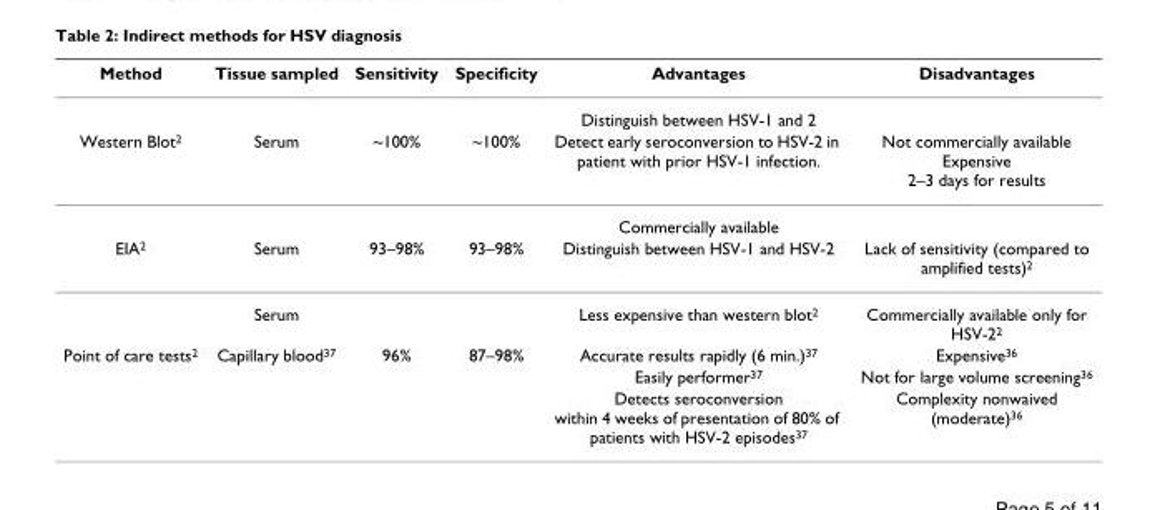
<table><thead><tr><td>Method</td><td>Tissue sampled</td><td>Sensitivity</td><td>Specificity</td><td>Advantages</td><td>Disadvantages</td></tr></thead><tbody><tr><td></td><td></td><td></td><td></td><td>Distinguish between HSV-1 and 2</td><td></td></tr><tr><td rowspan="2">Western Blot<sup>2</sup></td><td>Serum</td><td>~100%</td><td>~100%</td><td>Detect early seroconversion to HSV-2 in patient with prior HSV-1 infection.</td><td>Not commercially available Expensive 2–3 days for results</td></tr><tr><td></td><td></td><td></td><td>Commercially available</td><td></td></tr><tr><td rowspan="2">EIA<sup>2</sup></td><td>Serum</td><td>93–98%</td><td>93–98%</td><td>Distinguish between HSV-1 and HSV-2</td><td>Lack of sensitivity (compared to amplified tests)<sup>2</sup></td></tr><tr><td>Serum</td><td></td><td></td><td>Less expensive than western blot<sup>2</sup></td><td>Commercially available only for HSV-2<sup>2</sup></td></tr><tr><td rowspan="3">Point of care tests<sup>2</sup></td><td>Capillary blood<sup>37</sup></td><td>96%</td><td>87–98%</td><td>Accurate results rapidly (6 min.)<sup>37</sup></td><td>Expensive<sup>36</sup></td></tr><tr><td></td><td></td><td></td><td>Easily performer<sup>37</sup></td><td>Not for large volume screening<sup>36</sup></td></tr><tr><td></td><td></td><td></td><td>Detects seroconversion within 4 weeks of presentation of 80% of patients with HSV-2 episodes<sup>37</sup></td><td>Complexity nonwaived (moderate)<sup>36</sup></td></tr></tbody></table>